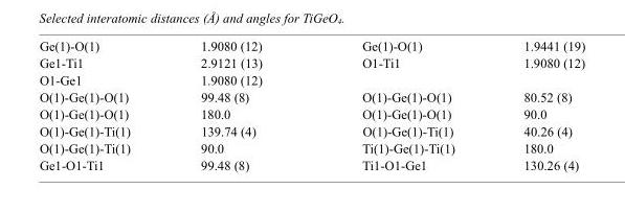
<table><tbody><tr><td>Ge(1)-O(1)</td><td>1.9080 (12)</td><td>Ge(1)-O(1)</td><td>1.9441 (19)</td></tr><tr><td>Ge1-Ti1</td><td>2.9121 (13)</td><td>O1-Ti1</td><td>1.9080 (12)</td></tr><tr><td>O1-Ge1</td><td>1.9080 (12)</td><td></td><td></td></tr><tr><td>O(1)-Ge(1)-O(1)</td><td>99.48 (8)</td><td>O(1)-Ge(1)-O(1)</td><td>80.52 (8)</td></tr><tr><td>O(1)-Ge(1)-O(1)</td><td>180.0</td><td>O(1)-Ge(1)-O(1)</td><td>90.0</td></tr><tr><td>O(1)-Ge(1)-Ti(1)</td><td>139.74 (4)</td><td>O(1)-Ge(1)-Ti(1)</td><td>40.26 (4)</td></tr><tr><td>O(1)-Ge(1)-Ti(1)</td><td>90.0</td><td>Ti(1)-Ge(1)-Ti(1)</td><td>180.0</td></tr><tr><td>Ge1-O1-Ti1</td><td>99.48 (8)</td><td>Ti1-O1-Ge1</td><td>130.26 (4)</td></tr></tbody></table>